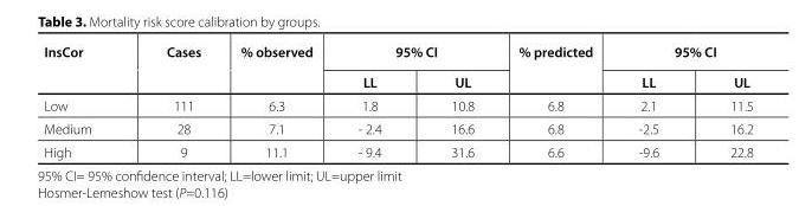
<table><thead><tr><td rowspan="2">InsCor</td><td rowspan="2">Cases</td><td rowspan="2">% observed</td><td colspan="2">95% CI</td><td rowspan="2">% predicted</td><td colspan="2">95% CI</td></tr><tr><td>LL</td><td>UL</td><td>LL</td><td>UL</td></tr></thead><tbody><tr><td>Low</td><td>111</td><td>6.3</td><td>1.8</td><td>10.8</td><td>6.8</td><td>2.1</td><td>11.5</td></tr><tr><td>Medium</td><td>28</td><td>7.1</td><td>- 2.4</td><td>16.6</td><td>6.8</td><td>-2.5</td><td>16.2</td></tr><tr><td>High</td><td>9</td><td>11.1</td><td>- 9.4</td><td>31.6</td><td>6.6</td><td>-9.6</td><td>22.8</td></tr></tbody></table>